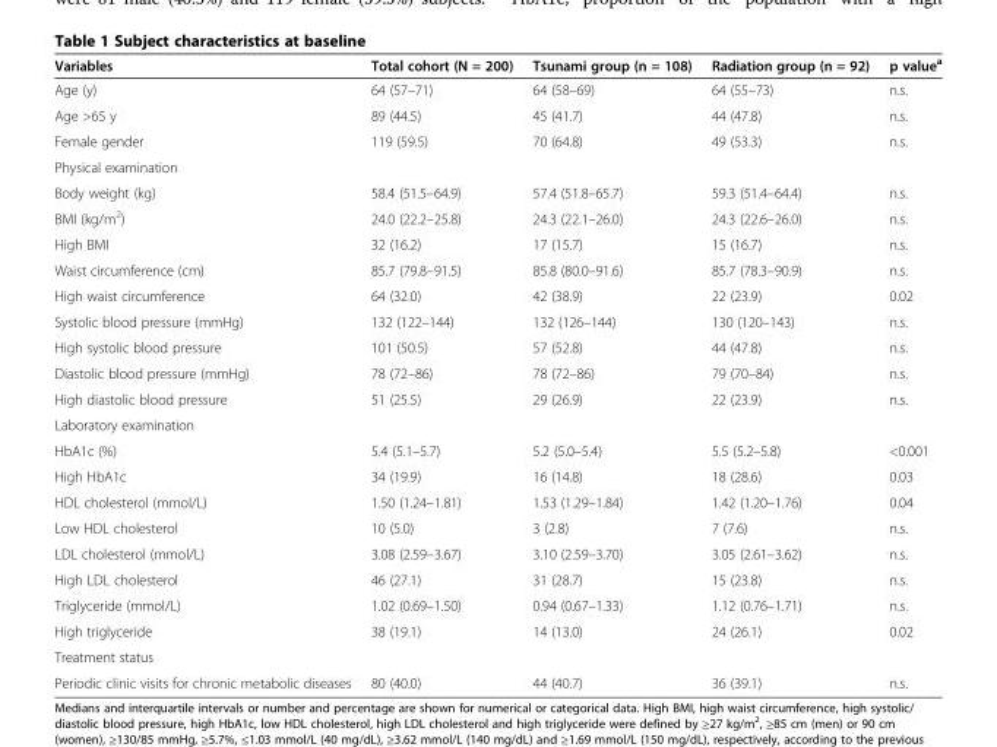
<table><thead><tr><td>Variables</td><td>Total cohort (N = 200)</td><td>Tsunami group (n = 108)</td><td>Radiation group (n = 92)</td><td>p value<sup>a</sup></td></tr></thead><tbody><tr><td>Age (y)</td><td>64 (57–71)</td><td>64 (58–69)</td><td>64 (55–73)</td><td>n.s.</td></tr><tr><td>Age &gt;65 y</td><td>89 (44.5)</td><td>45 (41.7)</td><td>44 (47.8)</td><td>n.s.</td></tr><tr><td>Female gender</td><td>119 (59.5)</td><td>70 (64.8)</td><td>49 (53.3)</td><td>n.s.</td></tr><tr><td colspan="5">Physical examination</td></tr><tr><td>Body weight (kg)</td><td>58.4 (51.5–64.9)</td><td>57.4 (51.8–65.7)</td><td>59.3 (51.4–64.4)</td><td>n.s.</td></tr><tr><td>BMI (kg/m<sup>2</sup>)</td><td>24.0 (22.2–25.8)</td><td>24.3 (22.1–26.0)</td><td>24.3 (22.6–26.0)</td><td>n.s.</td></tr><tr><td>High BMI</td><td>32 (16.2)</td><td>17 (15.7)</td><td>15 (16.7)</td><td>n.s.</td></tr><tr><td>Waist circumference (cm)</td><td>85.7 (79.8–91.5)</td><td>85.8 (80.0–91.6)</td><td>85.7 (78.3–90.9)</td><td>n.s.</td></tr><tr><td>High waist circumference</td><td>64 (32.0)</td><td>42 (38.9)</td><td>22 (23.9)</td><td>0.02</td></tr><tr><td>Systolic blood pressure (mmHg)</td><td>132 (122–144)</td><td>132 (126–144)</td><td>130 (120–143)</td><td>n.s.</td></tr><tr><td>High systolic blood pressure</td><td>101 (50.5)</td><td>57 (52.8)</td><td>44 (47.8)</td><td>n.s.</td></tr><tr><td>Diastolic blood pressure (mmHg)</td><td>78 (72–86)</td><td>78 (72–86)</td><td>79 (70–84)</td><td>n.s.</td></tr><tr><td>High diastolic blood pressure</td><td>51 (25.5)</td><td>29 (26.9)</td><td>22 (23.9)</td><td>n.s.</td></tr><tr><td colspan="5">Laboratory examination</td></tr><tr><td>HbA1c (%)</td><td>5.4 (5.1–5.7)</td><td>5.2 (5.0–5.4)</td><td>5.5 (5.2–5.8)</td><td>&lt;0.001</td></tr><tr><td>High HbA1c</td><td>34 (19.9)</td><td>16 (14.8)</td><td>18 (28.6)</td><td>0.03</td></tr><tr><td>HDL cholesterol (mmol/L)</td><td>1.50 (1.24–1.81)</td><td>1.53 (1.29–1.84)</td><td>1.42 (1.20–1.76)</td><td>0.04</td></tr><tr><td>Low HDL cholesterol</td><td>10 (5.0)</td><td>3 (2.8)</td><td>7 (7.6)</td><td>n.s.</td></tr><tr><td>LDL cholesterol (mmol/L)</td><td>3.08 (2.59–3.67)</td><td>3.10 (2.59–3.70)</td><td>3.05 (2.61–3.62)</td><td>n.s.</td></tr><tr><td>High LDL cholesterol</td><td>46 (27.1)</td><td>31 (28.7)</td><td>15 (23.8)</td><td>n.s.</td></tr><tr><td>Triglyceride (mmol/L)</td><td>1.02 (0.69–1.50)</td><td>0.94 (0.67–1.33)</td><td>1.12 (0.76–1.71)</td><td>n.s.</td></tr><tr><td>High triglyceride</td><td>38 (19.1)</td><td>14 (13.0)</td><td>24 (26.1)</td><td>0.02</td></tr><tr><td colspan="5">Treatment status</td></tr><tr><td>Periodic clinic visits for chronic metabolic diseases</td><td>80 (40.0)</td><td>44 (40.7)</td><td>36 (39.1)</td><td>n.s.</td></tr></tbody></table>